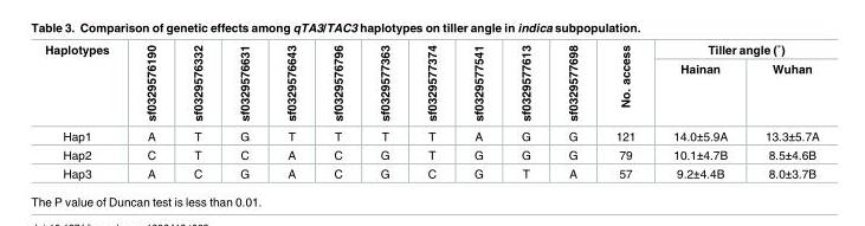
<table><thead><tr><td rowspan="2">Haplotypes</td><td rowspan="2">sf0329576190</td><td rowspan="2">sf0329576332</td><td rowspan="2">sf0329576631</td><td rowspan="2">sf0329576643</td><td rowspan="2">sf0329576796</td><td rowspan="2">sf0329577363</td><td rowspan="2">sf0329577374</td><td rowspan="2">sf0329577541</td><td rowspan="2">sf0329577613</td><td rowspan="2">sf0329577698</td><td rowspan="2">No. access</td><td colspan="2">Tiller angle (˚)</td></tr><tr><td>Hainan</td><td>Wuhan</td></tr></thead><tbody><tr><td>Hap1</td><td>A</td><td>T</td><td>G</td><td>T</td><td>T</td><td>T</td><td>T</td><td>A</td><td>G</td><td>G</td><td>121</td><td>14.0±5.9A</td><td>13.3±5.7A</td></tr><tr><td>Hap2</td><td>C</td><td>T</td><td>C</td><td>A</td><td>C</td><td>G</td><td>T</td><td>G</td><td>G</td><td>G</td><td>79</td><td>10.1±4.7B</td><td>8.5±4.6B</td></tr><tr><td>Hap3</td><td>A</td><td>C</td><td>G</td><td>A</td><td>C</td><td>G</td><td>C</td><td>G</td><td>T</td><td>A</td><td>57</td><td>9.2±4.4B</td><td>8.0±3.7B</td></tr></tbody></table>